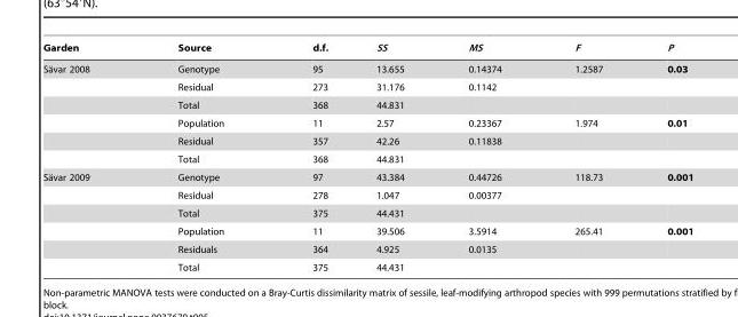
<table><thead><tr><td>Garden</td><td>Source</td><td>d.f.</td><td>SS</td><td>MS</td><td>F</td><td>P</td></tr></thead><tbody><tr><td rowspan="6">Sa¨var 2008</td><td>Genotype</td><td>95</td><td>13.655</td><td>0.14374</td><td>1.2587</td><td>0.03</td></tr><tr><td>Residual</td><td>273</td><td>31.176</td><td>0.1142</td><td></td><td></td></tr><tr><td>Total</td><td>368</td><td>44.831</td><td></td><td></td><td></td></tr><tr><td>Population</td><td>11</td><td>2.57</td><td>0.23367</td><td>1.974</td><td>0.01</td></tr><tr><td>Residual</td><td>357</td><td>42.26</td><td>0.11838</td><td></td><td></td></tr><tr><td>Total</td><td>368</td><td>44.831</td><td></td><td></td><td></td></tr><tr><td rowspan="6">Sa¨var 2009</td><td>Genotype</td><td>97</td><td>43.384</td><td>0.44726</td><td>118.73</td><td>0.001</td></tr><tr><td>Residual</td><td>278</td><td>1.047</td><td>0.00377</td><td></td><td></td></tr><tr><td>Total</td><td>375</td><td>44.431</td><td></td><td></td><td></td></tr><tr><td>Population</td><td>11</td><td>39.506</td><td>3.5914</td><td>265.41</td><td>0.001</td></tr><tr><td>Residuals</td><td>364</td><td>4.925</td><td>0.0135</td><td></td><td></td></tr><tr><td>Total</td><td>375</td><td>44.431</td><td></td><td></td><td></td></tr></tbody></table>